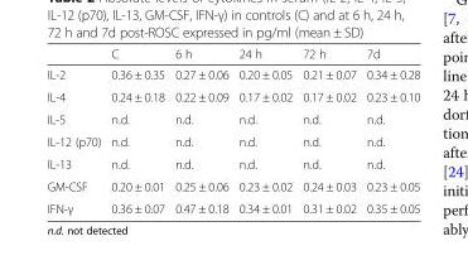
<table><thead><tr><td></td><td>C</td><td>6 h</td><td>24 h</td><td>72 h</td><td>7d</td></tr></thead><tbody><tr><td>IL-2</td><td>0.36 ± 0.35</td><td>0.27 ± 0.06</td><td>0.20 ± 0.05</td><td>0.21 ± 0.07</td><td>0.34 ± 0.28</td></tr><tr><td>IL-4</td><td>0.24 ± 0.18</td><td>0.22 ± 0.09</td><td>0.17 ± 0.02</td><td>0.17 ± 0.02</td><td>0.23 ± 0.10</td></tr><tr><td>IL-5</td><td>n.d.</td><td>n.d.</td><td>n.d.</td><td>n.d.</td><td>n.d.</td></tr><tr><td>IL-12 (p70)</td><td>n.d.</td><td>n.d.</td><td>n.d.</td><td>n.d.</td><td>n.d.</td></tr><tr><td>IL-13</td><td>n.d.</td><td>n.d.</td><td>n.d.</td><td>n.d.</td><td>n.d.</td></tr><tr><td>GM-CSF</td><td>0.20 ± 0.01</td><td>0.25 ± 0.06</td><td>0.23 ± 0.02</td><td>0.24 ± 0.03</td><td>0.23 ± 0.05</td></tr><tr><td>IFN-γ</td><td>0.36 ± 0.07</td><td>0.47 ± 0.18</td><td>0.34 ± 0.01</td><td>0.31 ± 0.02</td><td>0.35 ± 0.05</td></tr></tbody></table>